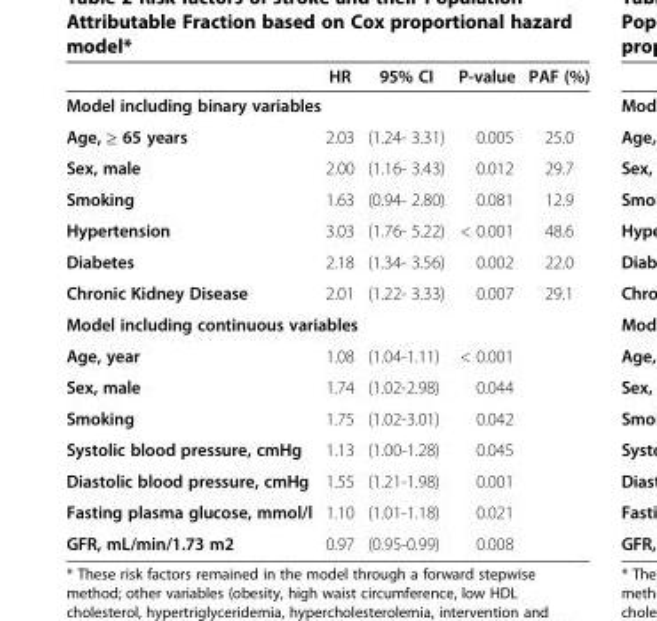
<table><thead><tr><td></td><td>HR</td><td>95% CI</td><td>P-value</td><td>PAF (%)</td></tr></thead><tbody><tr><td colspan="5">Model including binary variables</td></tr><tr><td>Age, ≥ 65 years</td><td>2.03</td><td>(1.24- 3.31)</td><td>0.005</td><td>25.0</td></tr><tr><td>Sex, male</td><td>2.00</td><td>(1.16- 3.43)</td><td>0.012</td><td>29.7</td></tr><tr><td>Smoking</td><td>1.63</td><td>(0.94- 2.80)</td><td>0.081</td><td>12.9</td></tr><tr><td>Hypertension</td><td>3.03</td><td>(1.76- 5.22)</td><td>&lt; 0.001</td><td>48.6</td></tr><tr><td>Diabetes</td><td>2.18</td><td>(1.34- 3.56)</td><td>0.002</td><td>22.0</td></tr><tr><td>Chronic Kidney Disease</td><td>2.01</td><td>(1.22- 3.33)</td><td>0.007</td><td>29.1</td></tr><tr><td colspan="5">Model including continuous variables</td></tr><tr><td>Age, year</td><td>1.08</td><td>(1.04-1.11)</td><td>&lt; 0.001</td><td></td></tr><tr><td>Sex, male</td><td>1.74</td><td>(1.02-2.98)</td><td>0.044</td><td></td></tr><tr><td>Smoking</td><td>1.75</td><td>(1.02-3.01)</td><td>0.042</td><td></td></tr><tr><td>Systolic blood pressure, cmHg</td><td>1.13</td><td>(1.00-1.28)</td><td>0.045</td><td></td></tr><tr><td>Diastolic blood pressure, cmHg</td><td>1.55</td><td>(1.21-1.98)</td><td>0.001</td><td></td></tr><tr><td>Fasting plasma glucose, mmol/l</td><td>1.10</td><td>(1.01-1.18)</td><td>0.021</td><td></td></tr><tr><td>GFR, mL/min/1.73 m2</td><td>0.97</td><td>(0.95-0.99)</td><td>0.008</td><td></td></tr></tbody></table>